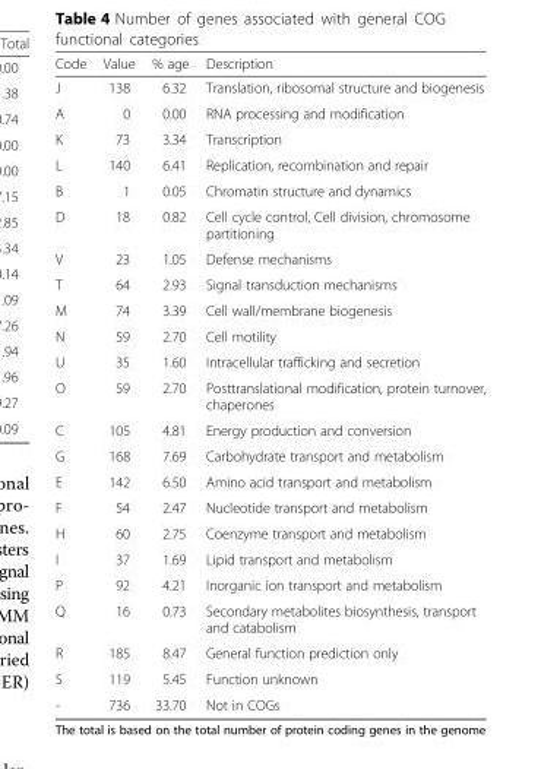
<table><thead><tr><td>Code</td><td>Value</td><td>% age</td><td>Description</td></tr></thead><tbody><tr><td>J</td><td>138</td><td>6.32</td><td>Translation, ribosomal structure and biogenesis</td></tr><tr><td>A</td><td>0</td><td>0.00</td><td>RNA processing and modification</td></tr><tr><td>K</td><td>73</td><td>3.34</td><td>Transcription</td></tr><tr><td>L</td><td>140</td><td>6.41</td><td>Replication, recombination and repair</td></tr><tr><td>B</td><td>1</td><td>0.05</td><td>Chromatin structure and dynamics</td></tr><tr><td>D</td><td>18</td><td>0.82</td><td>Cell cycle control, Cell division, chromosome partitioning</td></tr><tr><td>V</td><td>23</td><td>1.05</td><td>Defense mechanisms</td></tr><tr><td>T</td><td>64</td><td>2.93</td><td>Signal transduction mechanisms</td></tr><tr><td>M</td><td>74</td><td>3.39</td><td>Cell wall/membrane biogenesis</td></tr><tr><td>N</td><td>59</td><td>2.70</td><td>Cell motility</td></tr><tr><td>U</td><td>35</td><td>1.60</td><td>Intracellular trafficking and secretion</td></tr><tr><td>O</td><td>59</td><td>2.70</td><td>Posttranslational modification, protein turnover, chaperones</td></tr><tr><td>C</td><td>105</td><td>4.81</td><td>Energy production and conversion</td></tr><tr><td>G</td><td>168</td><td>7.69</td><td>Carbohydrate transport and metabolism</td></tr><tr><td>E</td><td>142</td><td>6.50</td><td>Amino acid transport and metabolism</td></tr><tr><td>F</td><td>54</td><td>2.47</td><td>Nucleotide transport and metabolism</td></tr><tr><td>H</td><td>60</td><td>2.75</td><td>Coenzyme transport and metabolism</td></tr><tr><td>I</td><td>37</td><td>1.69</td><td>Lipid transport and metabolism</td></tr><tr><td>P</td><td>92</td><td>4.21</td><td>Inorganic ion transport and metabolism</td></tr><tr><td>Q</td><td>16</td><td>0.73</td><td>Secondary metabolites biosynthesis, transport and catabolism</td></tr><tr><td>R</td><td>185</td><td>8.47</td><td>General function prediction only</td></tr><tr><td>S</td><td>119</td><td>5.45</td><td>Function unknown</td></tr><tr><td>-</td><td>736</td><td>33.70</td><td>Not in COGs</td></tr></tbody></table>